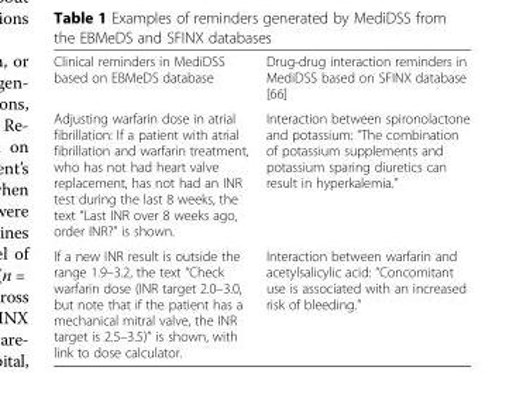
<table><tbody><tr><td>Clinical reminders in MediDSS based on EBMeDS database</td><td>Drug-drug interaction reminders in MediDSS based on SFINX database [66]</td></tr><tr><td>Adjusting warfarin dose in atrial fibrillation: If a patient with atrial fibrillation and warfarin treatment, who has not had heart valve replacement, has not had an INR test during the last 8 weeks, the text “Last INR over 8 weeks ago, order INR?” is shown.</td><td>Interaction between spironolactone and potassium: “The combination of potassium supplements and potassium sparing diuretics can result in hyperkalemia.”</td></tr><tr><td>If a new INR result is outside the range 1.9–3.2, the text “Check warfarin dose (INR target 2.0–3.0, but note that if the patient has a mechanical mitral valve, the INR target is 2.5–3.5)” is shown, with link to dose calculator.</td><td>Interaction between warfarin and acetylsalicylic acid: “Concomitant use is associated with an increased risk of bleeding.”</td></tr></tbody></table>